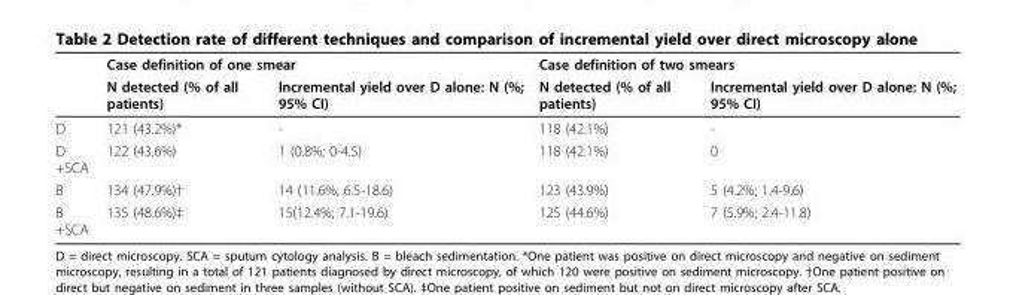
<table><thead><tr><td rowspan="2"></td><td colspan="2">Case definition of one smear</td><td colspan="2">Case definition of two smears</td></tr><tr><td>N detected (% of all patients)</td><td>Incremental yield over D alone: N (%; 95% CI)</td><td>N detected (% of all patients)</td><td>Incremental yield over D alone: N (%; 95% CI)</td></tr></thead><tbody><tr><td>D</td><td>121 (43.2%)*</td><td>-</td><td>118 (42.1%)</td><td>-</td></tr><tr><td>D +SCA</td><td>122 (43.6%)</td><td>1 (0.8%; 0-4.5)</td><td>118 (42.1%)</td><td>0</td></tr><tr><td>B</td><td>134 (47.9%)†</td><td>14 (11.6%; 6.5-18.6)</td><td>123 (43.9%)</td><td>5 (4.2%; 1.4-9.6)</td></tr><tr><td>B +SCA</td><td>135 (48.6%)‡</td><td>15(12.4%; 7.1-19.6)</td><td>125 (44.6%)</td><td>7 (5.9%; 2.4-11.8)</td></tr></tbody></table>